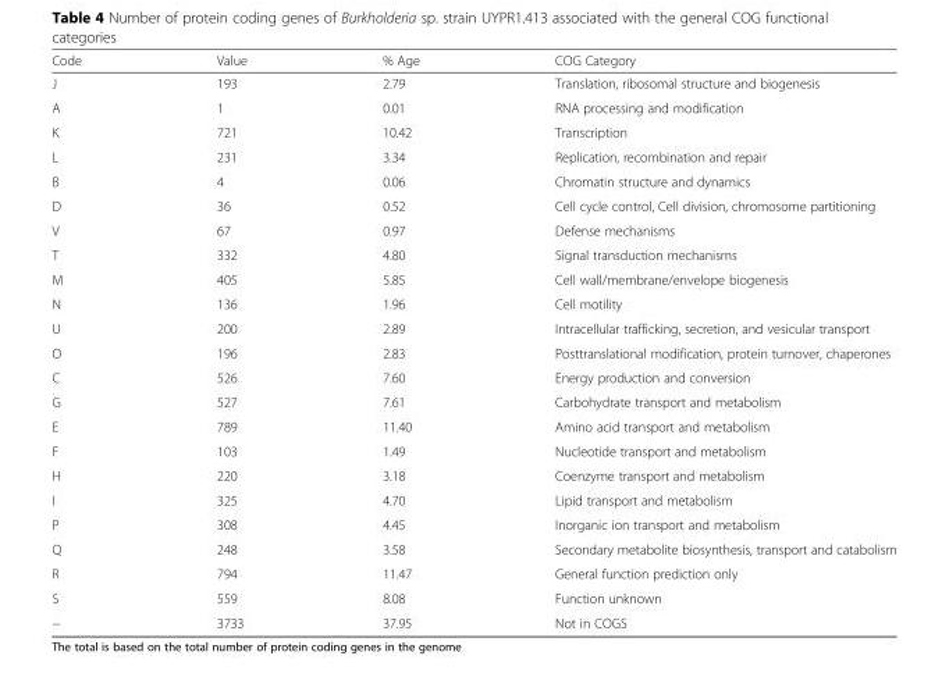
<table><thead><tr><td>Code</td><td>Value</td><td>% Age</td><td>COG Category</td></tr></thead><tbody><tr><td>J</td><td>193</td><td>2.79</td><td>Translation, ribosomal structure and biogenesis</td></tr><tr><td>A</td><td>1</td><td>0.01</td><td>RNA processing and modification</td></tr><tr><td>K</td><td>721</td><td>10.42</td><td>Transcription</td></tr><tr><td>L</td><td>231</td><td>3.34</td><td>Replication, recombination and repair</td></tr><tr><td>B</td><td>4</td><td>0.06</td><td>Chromatin structure and dynamics</td></tr><tr><td>D</td><td>36</td><td>0.52</td><td>Cell cycle control, Cell division, chromosome partitioning</td></tr><tr><td>V</td><td>67</td><td>0.97</td><td>Defense mechanisms</td></tr><tr><td>T</td><td>332</td><td>4.80</td><td>Signal transduction mechanisms</td></tr><tr><td>M</td><td>405</td><td>5.85</td><td>Cell wall/membrane/envelope biogenesis</td></tr><tr><td>N</td><td>136</td><td>1.96</td><td>Cell motility</td></tr><tr><td>U</td><td>200</td><td>2.89</td><td>Intracellular trafficking, secretion, and vesicular transport</td></tr><tr><td>O</td><td>196</td><td>2.83</td><td>Posttranslational modification, protein turnover, chaperones</td></tr><tr><td>C</td><td>526</td><td>7.60</td><td>Energy production and conversion</td></tr><tr><td>G</td><td>527</td><td>7.61</td><td>Carbohydrate transport and metabolism</td></tr><tr><td>E</td><td>789</td><td>11.40</td><td>Amino acid transport and metabolism</td></tr><tr><td>F</td><td>103</td><td>1.49</td><td>Nucleotide transport and metabolism</td></tr><tr><td>H</td><td>220</td><td>3.18</td><td>Coenzyme transport and metabolism</td></tr><tr><td>I</td><td>325</td><td>4.70</td><td>Lipid transport and metabolism</td></tr><tr><td>P</td><td>308</td><td>4.45</td><td>Inorganic ion transport and metabolism</td></tr><tr><td>Q</td><td>248</td><td>3.58</td><td>Secondary metabolite biosynthesis, transport and catabolism</td></tr><tr><td>R</td><td>794</td><td>11.47</td><td>General function prediction only</td></tr><tr><td>S</td><td>559</td><td>8.08</td><td>Function unknown</td></tr><tr><td>−</td><td>3733</td><td>37.95</td><td>Not in COGS</td></tr></tbody></table>